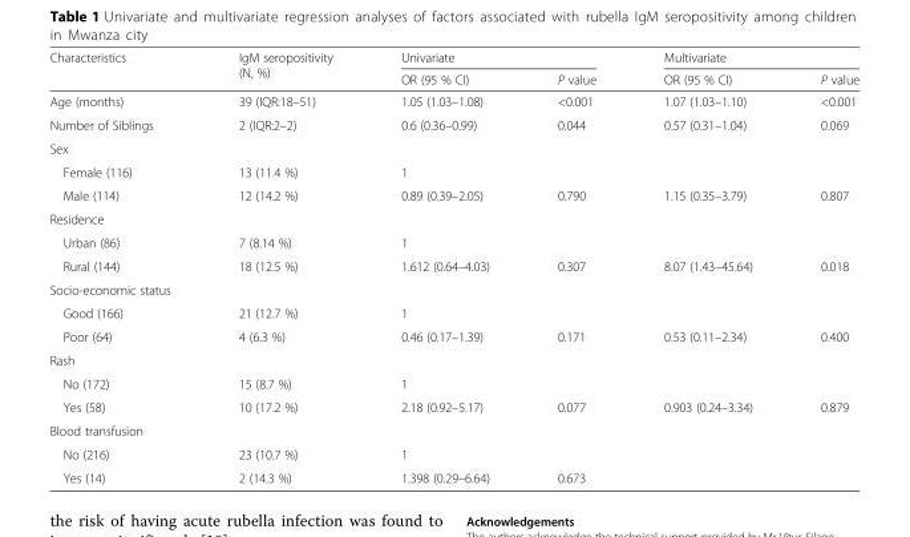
<table><thead><tr><td rowspan="2">Characteristics</td><td rowspan="2">IgM seropositivity (N, %)</td><td colspan="2">Univariate</td><td colspan="2">Multivariate</td></tr><tr><td>OR (95 % CI)</td><td>P value</td><td>OR (95 % CI)</td><td>P value</td></tr></thead><tbody><tr><td>Age (months)</td><td>39 (IQR:18–51)</td><td>1.05 (1.03–1.08)</td><td>&lt;0.001</td><td>1.07 (1.03–1.10)</td><td>&lt;0.001</td></tr><tr><td>Number of Siblings</td><td>2 (IQR:2–2)</td><td>0.6 (0.36–0.99)</td><td>0.044</td><td>0.57 (0.31–1.04)</td><td>0.069</td></tr><tr><td colspan="6">Sex</td></tr><tr><td>Female (116)</td><td>13 (11.4 %)</td><td>1</td><td></td><td></td><td></td></tr><tr><td>Male (114)</td><td>12 (14.2 %)</td><td>0.89 (0.39–2.05)</td><td>0.790</td><td>1.15 (0.35–3.79)</td><td>0.807</td></tr><tr><td colspan="6">Residence</td></tr><tr><td>Urban (86)</td><td>7 (8.14 %)</td><td>1</td><td></td><td></td><td></td></tr><tr><td>Rural (144)</td><td>18 (12.5 %)</td><td>1.612 (0.64–4.03)</td><td>0.307</td><td>8.07 (1.43–45.64)</td><td>0.018</td></tr><tr><td colspan="6">Socio-economic status</td></tr><tr><td>Good (166)</td><td>21 (12.7 %)</td><td>1</td><td></td><td></td><td></td></tr><tr><td>Poor (64)</td><td>4 (6.3 %)</td><td>0.46 (0.17–1.39)</td><td>0.171</td><td>0.53 (0.11–2.34)</td><td>0.400</td></tr><tr><td colspan="6">Rash</td></tr><tr><td>No (172)</td><td>15 (8.7 %)</td><td>1</td><td></td><td></td><td></td></tr><tr><td>Yes (58)</td><td>10 (17.2 %)</td><td>2.18 (0.92–5.17)</td><td>0.077</td><td>0.903 (0.24–3.34)</td><td>0.879</td></tr><tr><td colspan="6">Blood transfusion</td></tr><tr><td>No (216)</td><td>23 (10.7 %)</td><td>1</td><td></td><td></td><td></td></tr><tr><td>Yes (14)</td><td>2 (14.3 %)</td><td>1.398 (0.29–6.64)</td><td>0.673</td><td></td><td></td></tr></tbody></table>